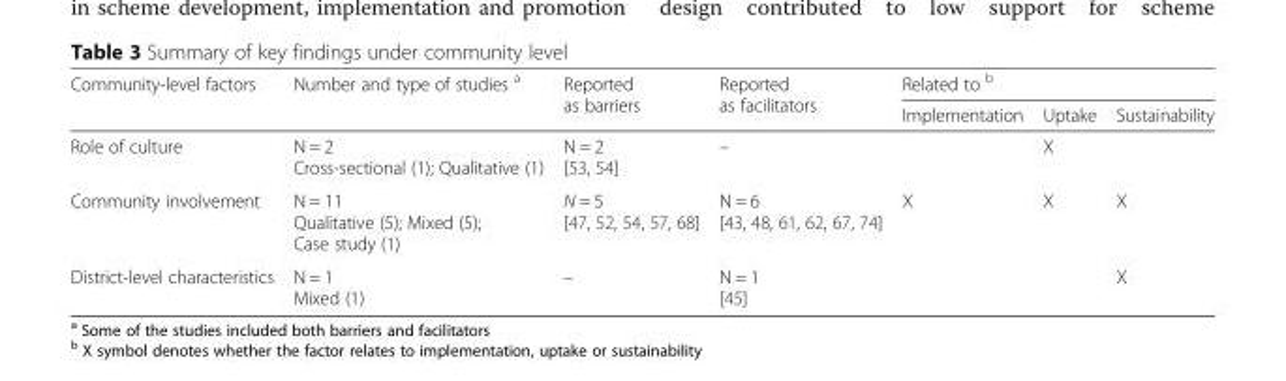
<table><thead><tr><td rowspan="2">Community-level factors</td><td rowspan="2">Number and type of studies <sup>a</sup></td><td rowspan="2">Reported as barriers</td><td rowspan="2">Reported as facilitators</td><td colspan="3">Related to <sup>b</sup></td></tr><tr><td>Implementation</td><td>Uptake</td><td>Sustainability</td></tr></thead><tbody><tr><td>Role of culture</td><td>N = 2 Cross-sectional (1); Qualitative (1)</td><td>N = 2 [53, 54]</td><td>–</td><td></td><td>X</td><td></td></tr><tr><td>Community involvement</td><td>N = 11 Qualitative (5); Mixed (5); Case study (1)</td><td>N = 5 [47, 52, 54, 57, 68]</td><td>N = 6 [43, 48, 61, 62, 67, 74]</td><td>X</td><td>X</td><td>X</td></tr><tr><td>District-level characteristics</td><td>N = 1 Mixed (1)</td><td>–</td><td>N = 1 [45]</td><td></td><td></td><td>X</td></tr></tbody></table>